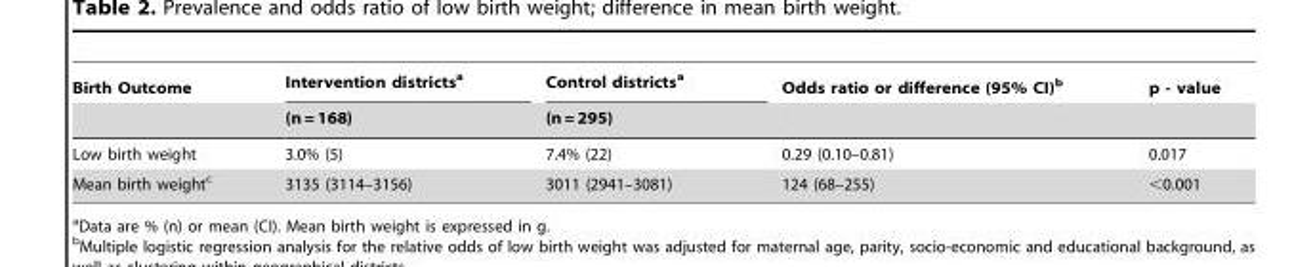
<table><thead><tr><td rowspan="2">Birth Outcome</td><td rowspan="2">Intervention districts<sup>a</sup> (n = 168)</td><td rowspan="2">Control districts<sup>a</sup> (n = 295)</td><td rowspan="2">Odds ratio or difference (95% CI)<sup>b</sup></td><td rowspan="2">p - value</td></tr><tr></tr></thead><tbody><tr><td>Low birth weight</td><td>3.0% (5)</td><td>7.4% (22)</td><td>0.29 (0.10–0.81)</td><td>0.017</td></tr><tr><td>Mean birth weight<sup>c</sup></td><td>3135 (3114–3156)</td><td>3011 (2941–3081)</td><td>124 (68–255)</td><td>&lt;0.001</td></tr></tbody></table>